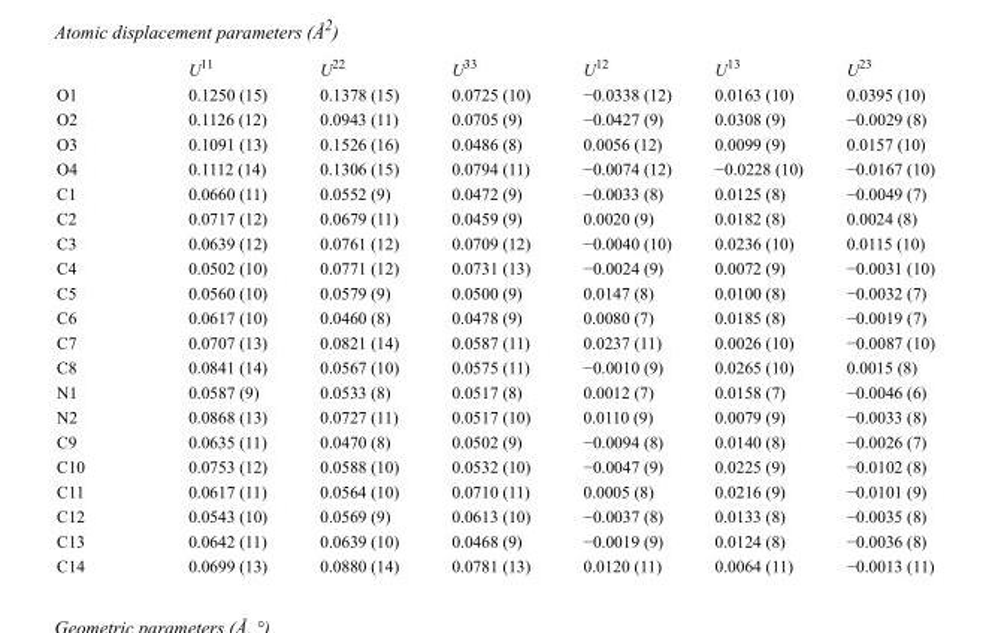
<table><thead><tr><td></td><td>U<sup>11</sup></td><td>U<sup>22</sup></td><td>U<sup>33</sup></td><td>U<sup>12</sup></td><td>U<sup>13</sup></td><td>U<sup>23</sup></td></tr></thead><tbody><tr><td>O1</td><td>0.1250 (15)</td><td>0.1378 (15)</td><td>0.0725 (10)</td><td>−0.0338 (12)</td><td>0.0163 (10)</td><td>0.0395 (10)</td></tr><tr><td>O2</td><td>0.1126 (12)</td><td>0.0943 (11)</td><td>0.0705 (9)</td><td>−0.0427 (9)</td><td>0.0308 (9)</td><td>−0.0029 (8)</td></tr><tr><td>O3</td><td>0.1091 (13)</td><td>0.1526 (16)</td><td>0.0486 (8)</td><td>0.0056 (12)</td><td>0.0099 (9)</td><td>0.0157 (10)</td></tr><tr><td>O4</td><td>0.1112 (14)</td><td>0.1306 (15)</td><td>0.0794 (11)</td><td>−0.0074 (12)</td><td>−0.0228 (10)</td><td>−0.0167 (10)</td></tr><tr><td>C1</td><td>0.0660 (11)</td><td>0.0552 (9)</td><td>0.0472 (9)</td><td>−0.0033 (8)</td><td>0.0125 (8)</td><td>−0.0049 (7)</td></tr><tr><td>C2</td><td>0.0717 (12)</td><td>0.0679 (11)</td><td>0.0459 (9)</td><td>0.0020 (9)</td><td>0.0182 (8)</td><td>0.0024 (8)</td></tr><tr><td>C3</td><td>0.0639 (12)</td><td>0.0761 (12)</td><td>0.0709 (12)</td><td>−0.0040 (10)</td><td>0.0236 (10)</td><td>0.0115 (10)</td></tr><tr><td>C4</td><td>0.0502 (10)</td><td>0.0771 (12)</td><td>0.0731 (13)</td><td>−0.0024 (9)</td><td>0.0072 (9)</td><td>−0.0031 (10)</td></tr><tr><td>C5</td><td>0.0560 (10)</td><td>0.0579 (9)</td><td>0.0500 (9)</td><td>0.0147 (8)</td><td>0.0100 (8)</td><td>−0.0032 (7)</td></tr><tr><td>C6</td><td>0.0617 (10)</td><td>0.0460 (8)</td><td>0.0478 (9)</td><td>0.0080 (7)</td><td>0.0185 (8)</td><td>−0.0019 (7)</td></tr><tr><td>C7</td><td>0.0707 (13)</td><td>0.0821 (14)</td><td>0.0587 (11)</td><td>0.0237 (11)</td><td>0.0026 (10)</td><td>−0.0087 (10)</td></tr><tr><td>C8</td><td>0.0841 (14)</td><td>0.0567 (10)</td><td>0.0575 (11)</td><td>−0.0010 (9)</td><td>0.0265 (10)</td><td>0.0015 (8)</td></tr><tr><td>N1</td><td>0.0587 (9)</td><td>0.0533 (8)</td><td>0.0517 (8)</td><td>0.0012 (7)</td><td>0.0158 (7)</td><td>−0.0046 (6)</td></tr><tr><td>N2</td><td>0.0868 (13)</td><td>0.0727 (11)</td><td>0.0517 (10)</td><td>0.0110 (9)</td><td>0.0079 (9)</td><td>−0.0033 (8)</td></tr><tr><td>C9</td><td>0.0635 (11)</td><td>0.0470 (8)</td><td>0.0502 (9)</td><td>−0.0094 (8)</td><td>0.0140 (8)</td><td>−0.0026 (7)</td></tr><tr><td>C10</td><td>0.0753 (12)</td><td>0.0588 (10)</td><td>0.0532 (10)</td><td>−0.0047 (9)</td><td>0.0225 (9)</td><td>−0.0102 (8)</td></tr><tr><td>C11</td><td>0.0617 (11)</td><td>0.0564 (10)</td><td>0.0710 (11)</td><td>0.0005 (8)</td><td>0.0216 (9)</td><td>−0.0101 (9)</td></tr><tr><td>C12</td><td>0.0543 (10)</td><td>0.0569 (9)</td><td>0.0613 (10)</td><td>−0.0037 (8)</td><td>0.0133 (8)</td><td>−0.0035 (8)</td></tr><tr><td>C13</td><td>0.0642 (11)</td><td>0.0639 (10)</td><td>0.0468 (9)</td><td>−0.0019 (9)</td><td>0.0124 (8)</td><td>−0.0036 (8)</td></tr><tr><td>C14</td><td>0.0699 (13)</td><td>0.0880 (14)</td><td>0.0781 (13)</td><td>0.0120 (11)</td><td>0.0064 (11)</td><td>−0.0013 (11)</td></tr></tbody></table>